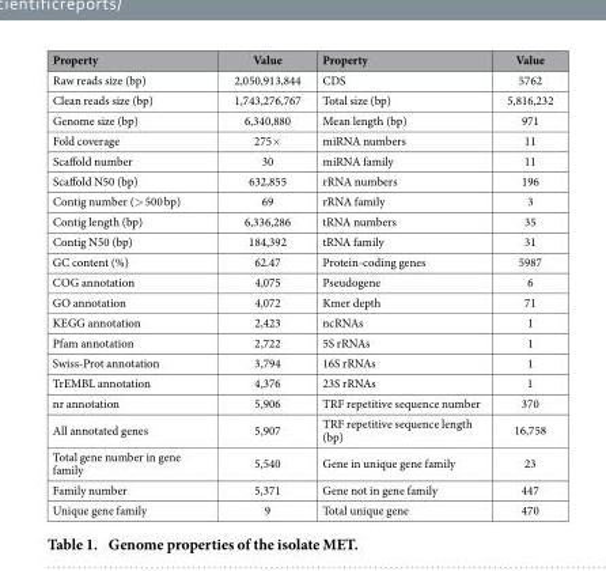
<table><thead><tr><td>Property</td><td>Value</td><td>Property</td><td>Value</td></tr></thead><tbody><tr><td>Raw reads size (bp)</td><td>2,050,913,844</td><td>CDS</td><td>5762</td></tr><tr><td>Clean reads size (bp)</td><td>1,743,276,767</td><td>Total size (bp)</td><td>5,816,232</td></tr><tr><td>Genome size (bp)</td><td>6,340,880</td><td>Mean length (bp)</td><td>971</td></tr><tr><td>Fold coverage</td><td>275×</td><td>miRNA numbers</td><td>11</td></tr><tr><td>Scaffold number</td><td>30</td><td>miRNA family</td><td>11</td></tr><tr><td>Scaffold N50 (bp)</td><td>632,855</td><td>rRNA numbers</td><td>196</td></tr><tr><td>Contig number (&gt; 500 bp)</td><td>69</td><td>rRNA family</td><td>3</td></tr><tr><td>Contig length (bp)</td><td>6,336,286</td><td>tRNA numbers</td><td>35</td></tr><tr><td>Contig N50 (bp)</td><td>184,392</td><td>tRNA family</td><td>31</td></tr><tr><td>GC content (%)</td><td>62.47</td><td>Protein-coding genes</td><td>5987</td></tr><tr><td>COG annotation</td><td>4,075</td><td>Pseudogene</td><td>6</td></tr><tr><td>GO annotation</td><td>4,072</td><td>Kmer depth</td><td>71</td></tr><tr><td>KEGG annotation</td><td>2,423</td><td>ncRNAs</td><td>1</td></tr><tr><td>Pfam annotation</td><td>2,722</td><td>5S rRNAs</td><td>1</td></tr><tr><td>Swiss-Prot annotation</td><td>3,794</td><td>16S rRNAs</td><td>1</td></tr><tr><td>TrEMBL annotation</td><td>4,376</td><td>23S rRNAs</td><td>1</td></tr><tr><td>nr annotation</td><td>5,906</td><td>TRF repetitive sequence number</td><td>370</td></tr><tr><td>All annotated genes</td><td>5,907</td><td>TRF repetitive sequence length (bp)</td><td>16,758</td></tr><tr><td>Total gene number in gene family</td><td>5,540</td><td>Gene in unique gene family</td><td>23</td></tr><tr><td>Family number</td><td>5,371</td><td>Gene not in gene family</td><td>447</td></tr><tr><td>Unique gene family</td><td>9</td><td>Total unique gene</td><td>470</td></tr></tbody></table>